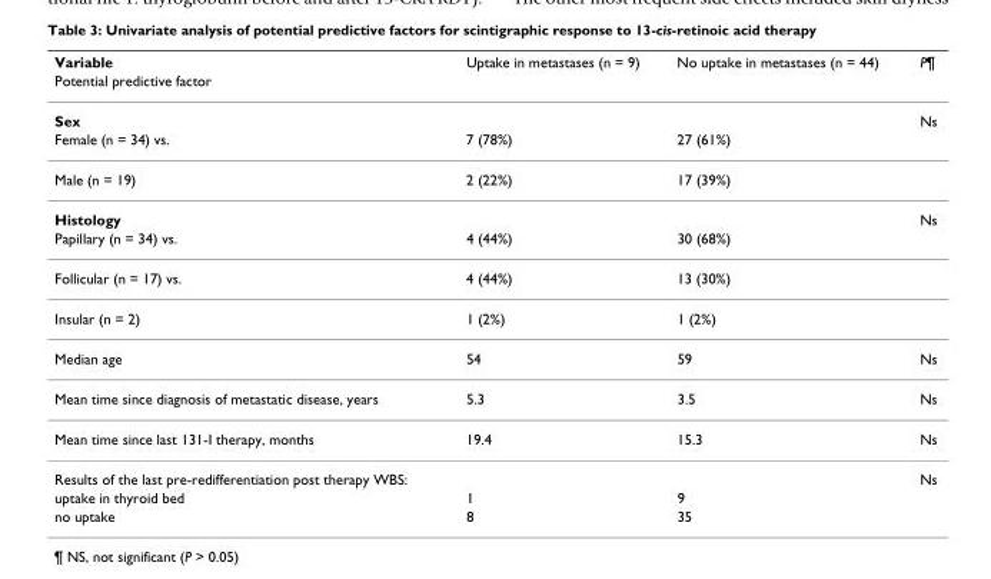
<table><thead><tr><td rowspan="2">Variable Potential predictive factor</td><td rowspan="2">Uptake in metastases (n = 9)</td><td rowspan="2">No uptake in metastases (n = 44)</td><td rowspan="2">P¶</td></tr><tr></tr></thead><tbody><tr><td>Sex</td><td></td><td></td><td>Ns</td></tr><tr><td>Female (n = 34) vs.</td><td>7 (78%)</td><td>27 (61%)</td><td></td></tr><tr><td>Male (n = 19)</td><td>2 (22%)</td><td>17 (39%)</td><td></td></tr><tr><td>Histology</td><td></td><td></td><td>Ns</td></tr><tr><td>Papillary (n = 34) vs.</td><td>4 (44%)</td><td>30 (68%)</td><td></td></tr><tr><td>Follicular (n = 17) vs.</td><td>4 (44%)</td><td>13 (30%)</td><td></td></tr><tr><td>Insular (n = 2)</td><td>1 (2%)</td><td>1 (2%)</td><td></td></tr><tr><td>Median age</td><td>54</td><td>59</td><td>Ns</td></tr><tr><td>Mean time since diagnosis of metastatic disease, years</td><td>5.3</td><td>3.5</td><td>Ns</td></tr><tr><td>Mean time since last 131-I therapy, months</td><td>19.4</td><td>15.3</td><td>Ns</td></tr><tr><td>Results of the last pre-redifferentiation post therapy WBS:</td><td></td><td></td><td>Ns</td></tr><tr><td>uptake in thyroid bed</td><td>1</td><td>9</td><td></td></tr><tr><td>no uptake</td><td>8</td><td>35</td><td></td></tr></tbody></table>